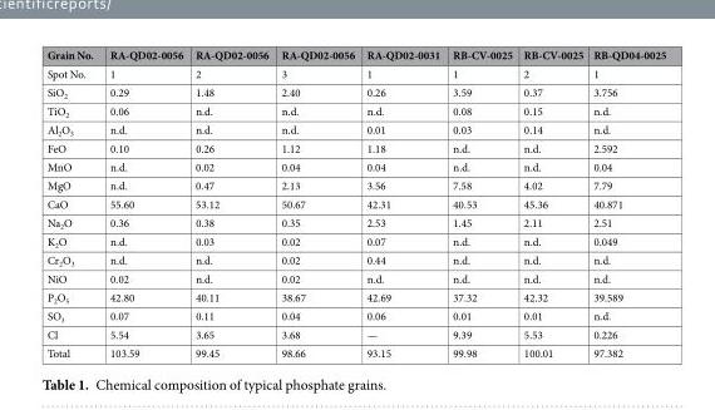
<table><thead><tr><td>Grain No.</td><td>RA-QD02-0056</td><td>RA-QD02-0056</td><td>RA-QD02-0056</td><td>RA-QD02-0031</td><td>RB-CV-0025</td><td>RB-CV-0025</td><td>RB-QD04-0025</td></tr></thead><tbody><tr><td>Spot No.</td><td>1</td><td>2</td><td>3</td><td>1</td><td>1</td><td>2</td><td>1</td></tr><tr><td>SiO<sub>2</sub></td><td>0.29</td><td>1.48</td><td>2.40</td><td>0.26</td><td>3.59</td><td>0.37</td><td>3.756</td></tr><tr><td>TiO<sub>2</sub></td><td>0.06</td><td>n.d.</td><td>n.d.</td><td>n.d.</td><td>0.08</td><td>0.15</td><td>n.d.</td></tr><tr><td>Al<sub>2</sub>O<sub>3</sub></td><td>n.d.</td><td>n.d.</td><td>n.d.</td><td>0.01</td><td>0.03</td><td>0.14</td><td>n.d.</td></tr><tr><td>FeO</td><td>0.10</td><td>0.26</td><td>1.12</td><td>1.18</td><td>n.d.</td><td>n.d.</td><td>2.592</td></tr><tr><td>MnO</td><td>n.d.</td><td>0.02</td><td>0.04</td><td>0.04</td><td>n.d.</td><td>n.d.</td><td>0.04</td></tr><tr><td>MgO</td><td>n.d.</td><td>0.47</td><td>2.13</td><td>3.56</td><td>7.58</td><td>4.02</td><td>7.79</td></tr><tr><td>CaO</td><td>55.60</td><td>53.12</td><td>50.67</td><td>42.31</td><td>40.53</td><td>45.36</td><td>40.871</td></tr><tr><td>Na<sub>2</sub>O</td><td>0.36</td><td>0.38</td><td>0.35</td><td>2.53</td><td>1.45</td><td>2.11</td><td>2.51</td></tr><tr><td>K<sub>2</sub>O</td><td>n.d.</td><td>0.03</td><td>0.02</td><td>0.07</td><td>n.d.</td><td>n.d.</td><td>0.049</td></tr><tr><td>Cr<sub>2</sub>O<sub>3</sub></td><td>n.d.</td><td>n.d.</td><td>0.02</td><td>0.44</td><td>n.d.</td><td>n.d.</td><td>n.d.</td></tr><tr><td>NiO</td><td>0.02</td><td>n.d.</td><td>0.02</td><td>n.d.</td><td>n.d.</td><td>n.d.</td><td>n.d.</td></tr><tr><td>P<sub>2</sub>O<sub>5</sub></td><td>42.80</td><td>40.11</td><td>38.67</td><td>42.69</td><td>37.32</td><td>42.32</td><td>39.589</td></tr><tr><td>SO<sub>3</sub></td><td>0.07</td><td>0.11</td><td>0.04</td><td>0.06</td><td>0.01</td><td>0.01</td><td>n.d.</td></tr><tr><td>Cl</td><td>5.54</td><td>3.65</td><td>3.68</td><td>—</td><td>9.39</td><td>5.53</td><td>0.226</td></tr><tr><td>Total</td><td>103.59</td><td>99.45</td><td>98.66</td><td>93.15</td><td>99.98</td><td>100.01</td><td>97.382</td></tr></tbody></table>